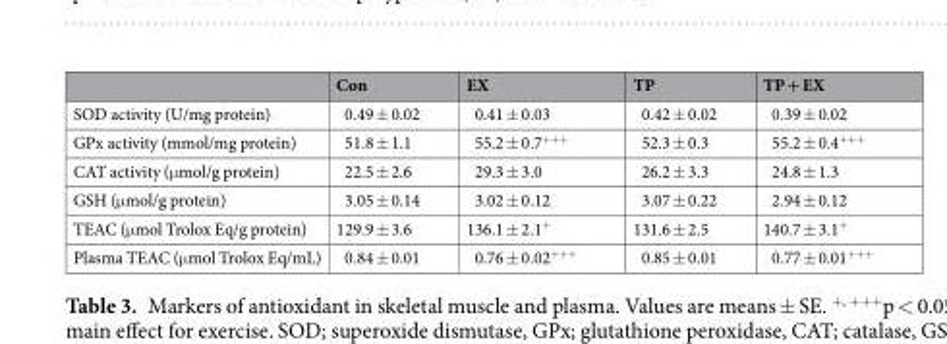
<table><thead><tr><td></td><td>Con</td><td>EX</td><td>TP</td><td>TP + EX</td></tr></thead><tbody><tr><td>SOD activity (U/mg protein)</td><td>0.49 ± 0.02</td><td>0.41 ± 0.03</td><td>0.42 ± 0.02</td><td>0.39 ± 0.02</td></tr><tr><td>GPx activity (mmol/mg protein)</td><td>51.8 ± 1.1</td><td>55.2 ± 0.7<sup>+++</sup></td><td>52.3 ± 0.3</td><td>55.2 ± 0.4<sup>+++</sup></td></tr><tr><td>CAT activity (μmol/g protein)</td><td>22.5 ± 2.6</td><td>29.3 ± 3.0</td><td>26.2 ± 3.3</td><td>24.8 ± 1.3</td></tr><tr><td>GSH (μmol/g protein)</td><td>3.05 ± 0.14</td><td>3.02 ± 0.12</td><td>3.07 ± 0.22</td><td>2.94 ± 0.12</td></tr><tr><td>TEAC (μmol Trolox Eq/g protein)</td><td>129.9 ± 3.6</td><td>136.1 ± 2.1<sup>+</sup></td><td>131.6 ± 2.5</td><td>140.7 ± 3.1<sup>+</sup></td></tr><tr><td>Plasma TEAC (μmol Trolox Eq/mL)</td><td>0.84 ± 0.01</td><td>0.76 ± 0.02<sup>+++</sup></td><td>0.85 ± 0.01</td><td>0.77 ± 0.01<sup>+++</sup></td></tr></tbody></table>